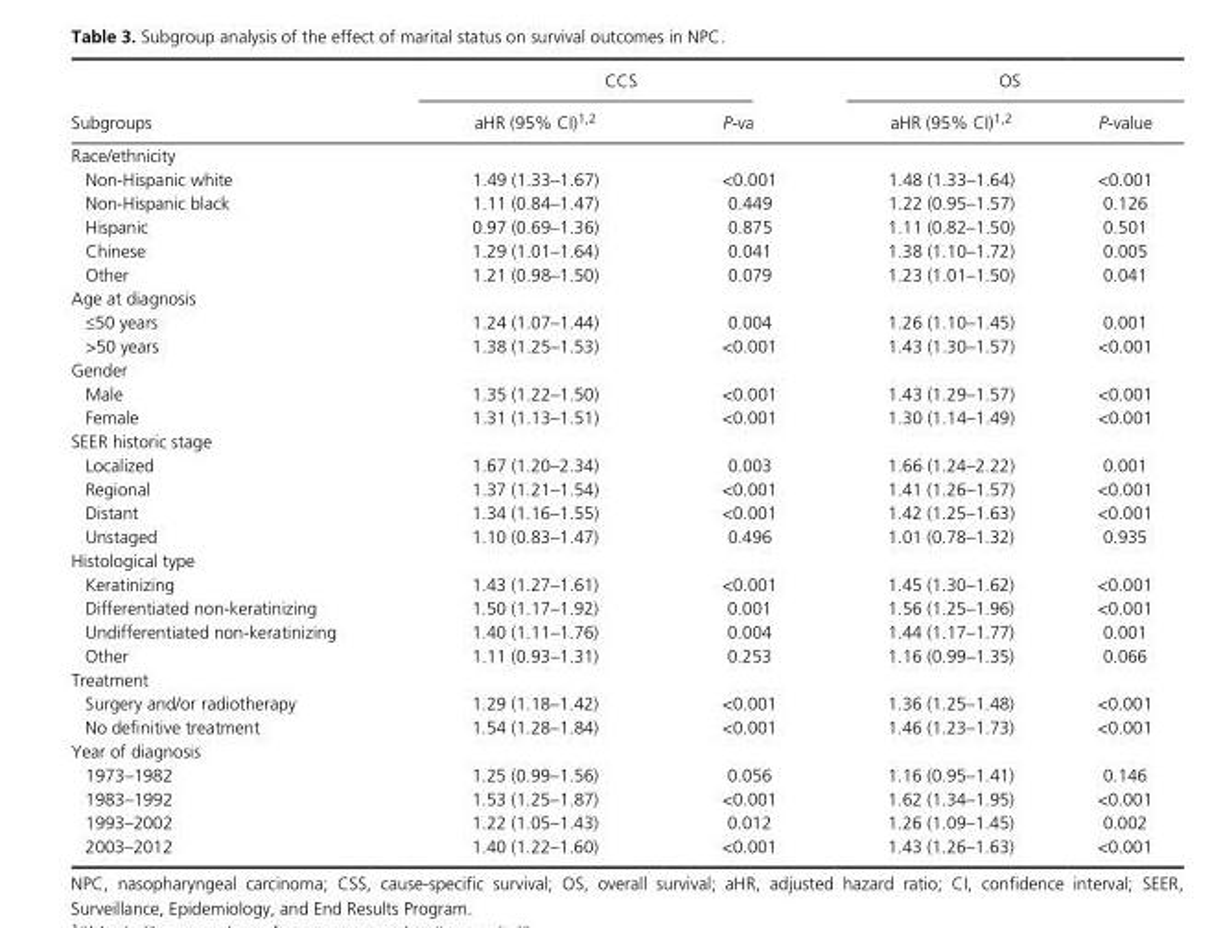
<table><thead><tr><td rowspan="2">Subgroups</td><td colspan="2">CCS</td><td colspan="2">OS</td></tr><tr><td>aHR (95% CI)1,2</td><td>P-value</td><td>aHR (95% CI)1,2</td><td>P-value</td></tr></thead><tbody><tr><td colspan="5">Race/ethnicity</td></tr><tr><td>Non- Hispanic white</td><td>1.49 (1.33–1.67)</td><td>&lt;0.001</td><td>1.48 (1.33–1.64)</td><td>&lt;0.001</td></tr><tr><td>Non- Hispanic black</td><td>1.11 (0.84–1.47)</td><td>0.449</td><td>1.22 (0.95–1.57)</td><td>0.126</td></tr><tr><td>Hispanic</td><td>0.97 (0.69–1.36)</td><td>0.875</td><td>1.11 (0.82–1.50)</td><td>0.501</td></tr><tr><td>Chinese</td><td>1.29 (1.01–1.64)</td><td>0.041</td><td>1.38 (1.10–1.72)</td><td>0.005</td></tr><tr><td>Other</td><td>1.21 (0.98–1.50)</td><td>0.079</td><td>1.23 (1.01–1.50)</td><td>0.041</td></tr><tr><td colspan="5">Age at diagnosis</td></tr><tr><td>≤50 years</td><td>1.24 (1.07–1.44)</td><td>0.004</td><td>1.26 (1.10–1.45)</td><td>0.001</td></tr><tr><td>&gt;50 years</td><td>1.38 (1.25–1.53)</td><td>&lt;0.001</td><td>1.43 (1.30–1.57)</td><td>&lt;0.001</td></tr><tr><td colspan="5">Gender</td></tr><tr><td>Male</td><td>1.35 (1.22–1.50)</td><td>&lt;0.001</td><td>1.43 (1.29–1.57)</td><td>&lt;0.001</td></tr><tr><td>Female</td><td>1.31 (1.13–1.51)</td><td>&lt;0.001</td><td>1.30 (1.14–1.49)</td><td>&lt;0.001</td></tr><tr><td colspan="5">SEER historic stage</td></tr><tr><td>Localized</td><td>1.67 (1.20–2.34)</td><td>0.003</td><td>1.66 (1.24–2.22)</td><td>0.001</td></tr><tr><td>Regional</td><td>1.37 (1.21–1.54)</td><td>&lt;0.001</td><td>1.41 (1.26–1.57)</td><td>&lt;0.001</td></tr><tr><td>Distant</td><td>1.34 (1.16–1.55)</td><td>&lt;0.001</td><td>1.42 (1.25–1.63)</td><td>&lt;0.001</td></tr><tr><td>Unstaged</td><td>1.10 (0.83–1.47)</td><td>0.496</td><td>1.01 (0.78–1.32)</td><td>0.935</td></tr><tr><td colspan="5">Histological type</td></tr><tr><td>Keratinizing</td><td>1.43 (1.27–1.61)</td><td>&lt;0.001</td><td>1.45 (1.30–1.62)</td><td>&lt;0.001</td></tr><tr><td>Differentiated non- keratinizing</td><td>1.50 (1.17–1.92)</td><td>0.001</td><td>1.56 (1.25–1.96)</td><td>&lt;0.001</td></tr><tr><td>Undifferentiated non- keratinizing</td><td>1.40 (1.11–1.76)</td><td>0.004</td><td>1.44 (1.17–1.77)</td><td>0.001</td></tr><tr><td>Other</td><td>1.11 (0.93–1.31)</td><td>0.253</td><td>1.16 (0.99–1.35)</td><td>0.066</td></tr><tr><td colspan="5">Treatment</td></tr><tr><td>Surgery and/or radiotherapy</td><td>1.29 (1.18–1.42)</td><td>&lt;0.001</td><td>1.36 (1.25–1.48)</td><td>&lt;0.001</td></tr><tr><td>No definitive treatment</td><td>1.54 (1.28–1.84)</td><td>&lt;0.001</td><td>1.46 (1.23–1.73)</td><td>&lt;0.001</td></tr><tr><td colspan="5">Year of diagnosis</td></tr><tr><td>1973–1982</td><td>1.25 (0.99–1.56)</td><td>0.056</td><td>1.16 (0.95–1.41)</td><td>0.146</td></tr><tr><td>1983–1992</td><td>1.53 (1.25–1.87)</td><td>&lt;0.001</td><td>1.62 (1.34–1.95)</td><td>&lt;0.001</td></tr><tr><td>1993–2002</td><td>1.22 (1.05–1.43)</td><td>0.012</td><td>1.26 (1.09–1.45)</td><td>0.002</td></tr><tr><td>2003–2012</td><td>1.40 (1.22–1.60)</td><td>&lt;0.001</td><td>1.43 (1.26–1.63)</td><td>&lt;0.001</td></tr></tbody></table>